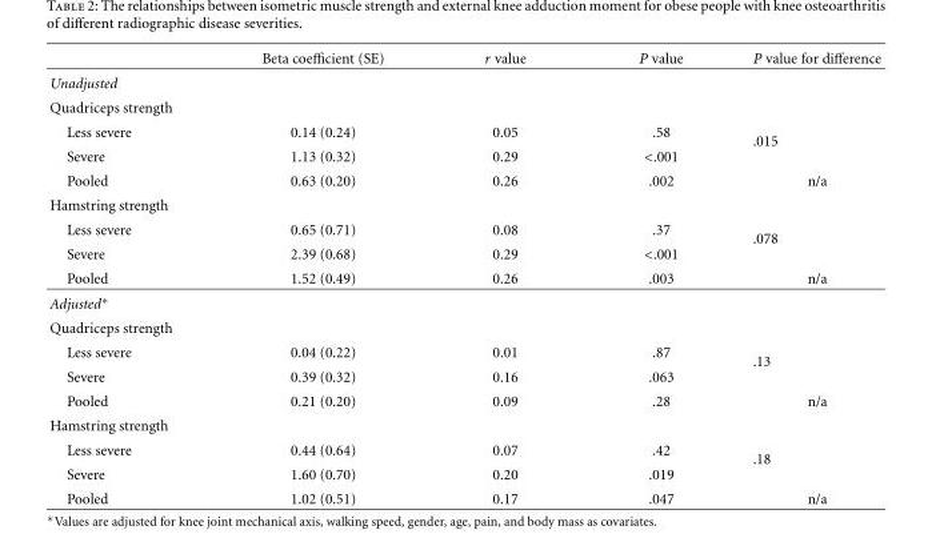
<table><thead><tr><td></td><td>Beta coefficient (SE)</td><td>r value</td><td>P value</td><td>P value for difference</td></tr></thead><tbody><tr><td colspan="5">Unadjusted</td></tr><tr><td colspan="5">Quadriceps strength</td></tr><tr><td>Less severe</td><td>0.14 (0.24)</td><td>0.05</td><td>.58</td><td rowspan="2">.015</td></tr><tr><td>Severe</td><td>1.13 (0.32)</td><td>0.29</td><td>&lt;.001</td></tr><tr><td>Pooled</td><td>0.63 (0.20)</td><td>0.26</td><td>.002</td><td>n/a</td></tr><tr><td colspan="5">Hamstring strength</td></tr><tr><td>Less severe</td><td>0.65 (0.71)</td><td>0.08</td><td>.37</td><td rowspan="2">.078</td></tr><tr><td>Severe</td><td>2.39 (0.68)</td><td>0.29</td><td>&lt;.001</td></tr><tr><td>Pooled</td><td>1.52 (0.49)</td><td>0.26</td><td>.003</td><td>n/a</td></tr><tr><td colspan="5">Adjusted∗</td></tr><tr><td colspan="5">Quadriceps strength</td></tr><tr><td>Less severe</td><td>0.04 (0.22)</td><td>0.01</td><td>.87</td><td rowspan="2">.13</td></tr><tr><td>Severe</td><td>0.39 (0.32)</td><td>0.16</td><td>.063</td></tr><tr><td>Pooled</td><td>0.21 (0.20)</td><td>0.09</td><td>.28</td><td>n/a</td></tr><tr><td colspan="5">Hamstring strength</td></tr><tr><td>Less severe</td><td>0.44 (0.64)</td><td>0.07</td><td>.42</td><td rowspan="2">.18</td></tr><tr><td>Severe</td><td>1.60 (0.70)</td><td>0.20</td><td>.019</td></tr><tr><td>Pooled</td><td>1.02 (0.51)</td><td>0.17</td><td>.047</td><td>n/a</td></tr></tbody></table>